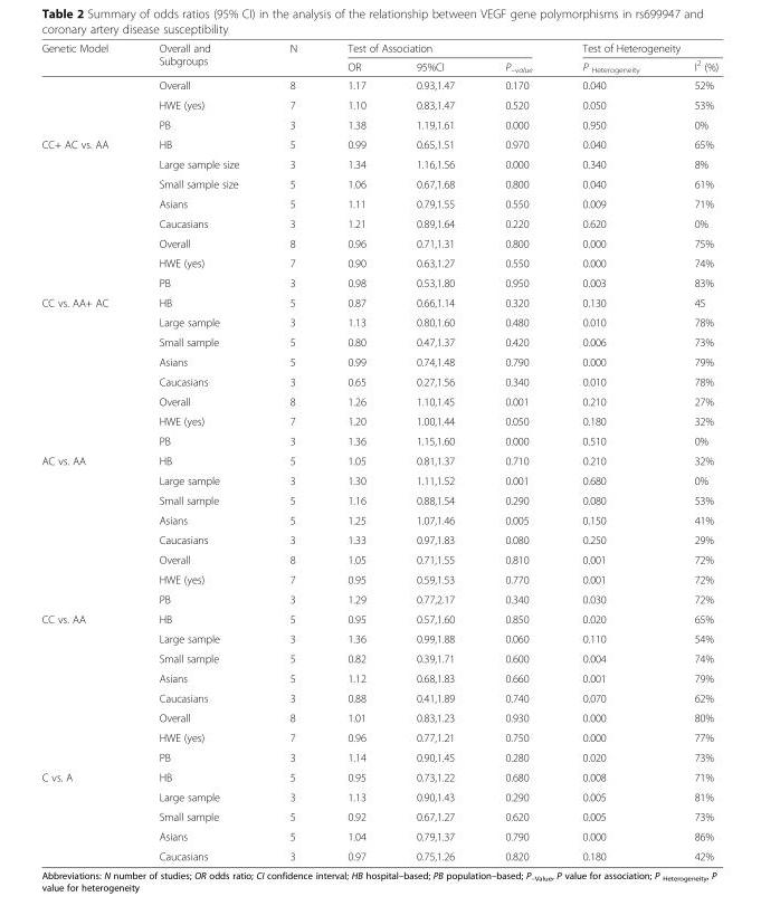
<table><thead><tr><td rowspan="2">Genetic Model</td><td rowspan="2">Overall and Subgroups</td><td rowspan="2">N</td><td colspan="3">Test of Association</td><td colspan="2">Test of Heterogeneity</td></tr><tr><td>OR</td><td>95%CI</td><td>P<sub>–value</sub></td><td>P <sub>Heterogeneity</sub></td><td>I<sup>2</sup> (%)</td></tr></thead><tbody><tr><td></td><td>Overall</td><td>8</td><td>1.17</td><td>0.93,1.47</td><td>0.170</td><td>0.040</td><td>52%</td></tr><tr><td></td><td>HWE (yes)</td><td>7</td><td>1.10</td><td>0.83,1.47</td><td>0.520</td><td>0.050</td><td>53%</td></tr><tr><td></td><td>PB</td><td>3</td><td>1.38</td><td>1.19,1.61</td><td>0.000</td><td>0.950</td><td>0%</td></tr><tr><td rowspan="8">CC+ AC vs. AA</td><td>HB</td><td>5</td><td>0.99</td><td>0.65,1.51</td><td>0.970</td><td>0.040</td><td>65%</td></tr><tr><td>Large sample size</td><td>3</td><td>1.34</td><td>1.16,1.56</td><td>0.000</td><td>0.340</td><td>8%</td></tr><tr><td>Small sample size</td><td>5</td><td>1.06</td><td>0.67,1.68</td><td>0.800</td><td>0.040</td><td>61%</td></tr><tr><td>Asians</td><td>5</td><td>1.11</td><td>0.79,1.55</td><td>0.550</td><td>0.009</td><td>71%</td></tr><tr><td>Caucasians</td><td>3</td><td>1.21</td><td>0.89,1.64</td><td>0.220</td><td>0.620</td><td>0%</td></tr><tr><td>Overall</td><td>8</td><td>0.96</td><td>0.71,1.31</td><td>0.800</td><td>0.000</td><td>75%</td></tr><tr><td>HWE (yes)</td><td>7</td><td>0.90</td><td>0.63,1.27</td><td>0.550</td><td>0.000</td><td>74%</td></tr><tr><td>PB</td><td>3</td><td>0.98</td><td>0.53,1.80</td><td>0.950</td><td>0.003</td><td>83%</td></tr><tr><td rowspan="8">CC vs. AA+ AC</td><td>HB</td><td>5</td><td>0.87</td><td>0.66,1.14</td><td>0.320</td><td>0.130</td><td>45</td></tr><tr><td>Large sample</td><td>3</td><td>1.13</td><td>0.80,1.60</td><td>0.480</td><td>0.010</td><td>78%</td></tr><tr><td>Small sample</td><td>5</td><td>0.80</td><td>0.47,1.37</td><td>0.420</td><td>0.006</td><td>73%</td></tr><tr><td>Asians</td><td>5</td><td>0.99</td><td>0.74,1.48</td><td>0.790</td><td>0.000</td><td>79%</td></tr><tr><td>Caucasians</td><td>3</td><td>0.65</td><td>0.27,1.56</td><td>0.340</td><td>0.010</td><td>78%</td></tr><tr><td>Overall</td><td>8</td><td>1.26</td><td>1.10,1.45</td><td>0.001</td><td>0.210</td><td>27%</td></tr><tr><td>HWE (yes)</td><td>7</td><td>1.20</td><td>1.00,1.44</td><td>0.050</td><td>0.180</td><td>32%</td></tr><tr><td>PB</td><td>3</td><td>1.36</td><td>1.15,1.60</td><td>0.000</td><td>0.510</td><td>0%</td></tr><tr><td rowspan="8">AC vs. AA</td><td>HB</td><td>5</td><td>1.05</td><td>0.81,1.37</td><td>0.710</td><td>0.210</td><td>32%</td></tr><tr><td>Large sample</td><td>3</td><td>1.30</td><td>1.11,1.52</td><td>0.001</td><td>0.680</td><td>0%</td></tr><tr><td>Small sample</td><td>5</td><td>1.16</td><td>0.88,1.54</td><td>0.290</td><td>0.080</td><td>53%</td></tr><tr><td>Asians</td><td>5</td><td>1.25</td><td>1.07,1.46</td><td>0.005</td><td>0.150</td><td>41%</td></tr><tr><td>Caucasians</td><td>3</td><td>1.33</td><td>0.97,1.83</td><td>0.080</td><td>0.250</td><td>29%</td></tr><tr><td>Overall</td><td>8</td><td>1.05</td><td>0.71,1.55</td><td>0.810</td><td>0.001</td><td>72%</td></tr><tr><td>HWE (yes)</td><td>7</td><td>0.95</td><td>0.59,1.53</td><td>0.770</td><td>0.001</td><td>72%</td></tr><tr><td>PB</td><td>3</td><td>1.29</td><td>0.77,2.17</td><td>0.340</td><td>0.030</td><td>72%</td></tr><tr><td rowspan="8">CC vs. AA</td><td>HB</td><td>5</td><td>0.95</td><td>0.57,1.60</td><td>0.850</td><td>0.020</td><td>65%</td></tr><tr><td>Large sample</td><td>3</td><td>1.36</td><td>0.99,1.88</td><td>0.060</td><td>0.110</td><td>54%</td></tr><tr><td>Small sample</td><td>5</td><td>0.82</td><td>0.39,1.71</td><td>0.600</td><td>0.004</td><td>74%</td></tr><tr><td>Asians</td><td>5</td><td>1.12</td><td>0.68,1.83</td><td>0.660</td><td>0.001</td><td>79%</td></tr><tr><td>Caucasians</td><td>3</td><td>0.88</td><td>0.41,1.89</td><td>0.740</td><td>0.070</td><td>62%</td></tr><tr><td>Overall</td><td>8</td><td>1.01</td><td>0.83,1.23</td><td>0.930</td><td>0.000</td><td>80%</td></tr><tr><td>HWE (yes)</td><td>7</td><td>0.96</td><td>0.77,1.21</td><td>0.750</td><td>0.000</td><td>77%</td></tr><tr><td>PB</td><td>3</td><td>1.14</td><td>0.90,1.45</td><td>0.280</td><td>0.020</td><td>73%</td></tr><tr><td rowspan="5">C vs. A</td><td>HB</td><td>5</td><td>0.95</td><td>0.73,1.22</td><td>0.680</td><td>0.008</td><td>71%</td></tr><tr><td>Large sample</td><td>3</td><td>1.13</td><td>0.90,1.43</td><td>0.290</td><td>0.005</td><td>81%</td></tr><tr><td>Small sample</td><td>5</td><td>0.92</td><td>0.67,1.27</td><td>0.620</td><td>0.005</td><td>73%</td></tr><tr><td>Asians</td><td>5</td><td>1.04</td><td>0.79,1.37</td><td>0.790</td><td>0.000</td><td>86%</td></tr><tr><td>Caucasians</td><td>3</td><td>0.97</td><td>0.75,1.26</td><td>0.820</td><td>0.180</td><td>42%</td></tr></tbody></table>